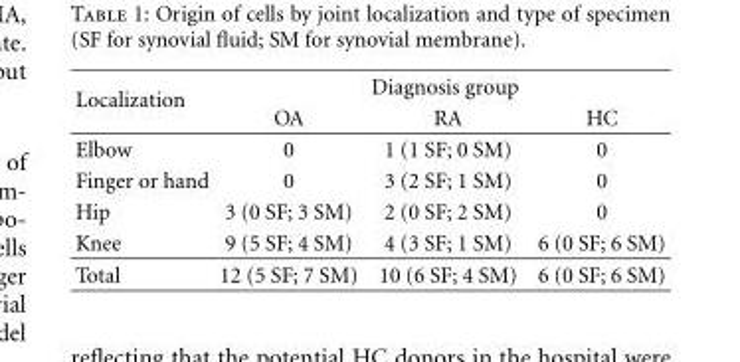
<table><thead><tr><td rowspan="2">Localization</td><td colspan="3">Diagnosis group</td></tr><tr><td>OA</td><td>RA</td><td>HC</td></tr></thead><tbody><tr><td>Elbow</td><td>0</td><td>1 (1 SF; 0 SM)</td><td>0</td></tr><tr><td>Finger or hand</td><td>0</td><td>3 (2 SF; 1 SM)</td><td>0</td></tr><tr><td>Hip</td><td>3 (0 SF; 3 SM)</td><td>2 (0 SF; 2 SM)</td><td>0</td></tr><tr><td>Knee</td><td>9 (5 SF; 4 SM)</td><td>4 (3 SF; 1 SM)</td><td>6 (0 SF; 6 SM)</td></tr><tr><td>Total</td><td>12 (5 SF; 7 SM)</td><td>10 (6 SF; 4 SM)</td><td>6 (0 SF; 6 SM)</td></tr></tbody></table>